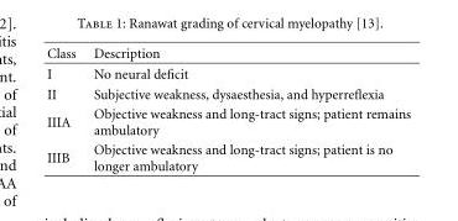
<table><thead><tr><td>Class</td><td>Description</td></tr></thead><tbody><tr><td>I</td><td>No neural deficit</td></tr><tr><td>II</td><td>Subjective weakness, dysaesthesia, and hyperreflexia</td></tr><tr><td>IIIA</td><td>Objective weakness and long-tract signs; patient remains ambulatory</td></tr><tr><td>IIIB</td><td>Objective weakness and long-tract signs; patient is no longer ambulatory</td></tr></tbody></table>